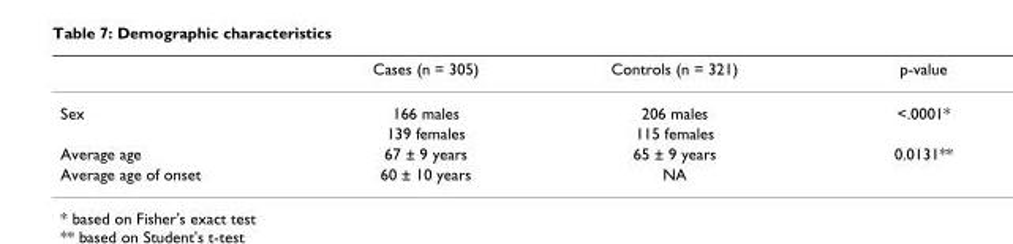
<table><thead><tr><td></td><td>Cases (n = 305)</td><td>Controls (n = 321)</td><td>p-value</td></tr></thead><tbody><tr><td rowspan="2">Sex</td><td>166 males</td><td>206 males</td><td>&lt;.0001*</td></tr><tr><td>139 females</td><td>115 females</td><td></td></tr><tr><td>Average age</td><td>67 ± 9 years</td><td>65 ± 9 years</td><td>0.0131**</td></tr><tr><td>Average age of onset</td><td>60 ± 10 years</td><td>NA</td><td></td></tr></tbody></table>